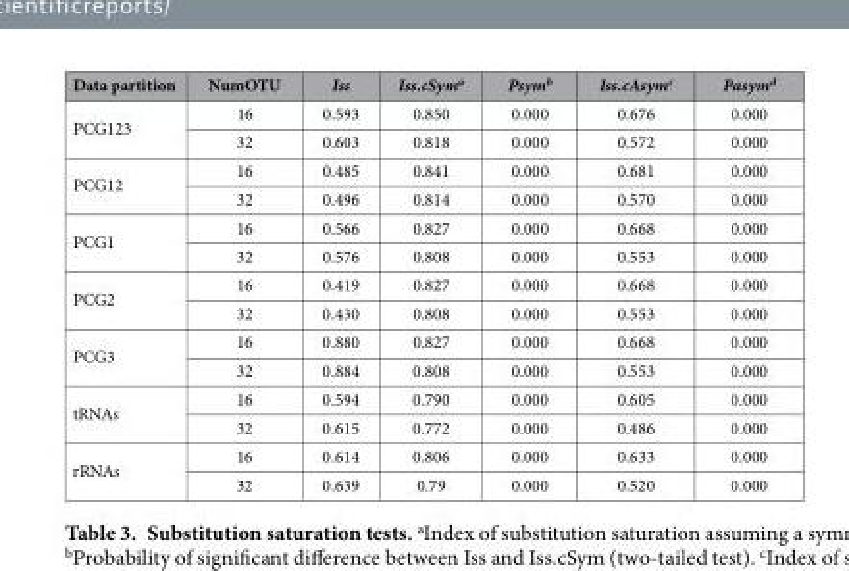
<table><thead><tr><td>Data partition</td><td>NumOTU</td><td>Iss</td><td>Iss.cSym<sup>a</sup></td><td>Psym<sup>b</sup></td><td>Iss.cAsym<sup>c</sup></td><td>Pasym<sup>d</sup></td></tr></thead><tbody><tr><td rowspan="2">PCG123</td><td>16</td><td>0.593</td><td>0.850</td><td>0.000</td><td>0.676</td><td>0.000</td></tr><tr><td>32</td><td>0.603</td><td>0.818</td><td>0.000</td><td>0.572</td><td>0.000</td></tr><tr><td rowspan="2">PCG12</td><td>16</td><td>0.485</td><td>0.841</td><td>0.000</td><td>0.681</td><td>0.000</td></tr><tr><td>32</td><td>0.496</td><td>0.814</td><td>0.000</td><td>0.570</td><td>0.000</td></tr><tr><td rowspan="2">PCG1</td><td>16</td><td>0.566</td><td>0.827</td><td>0.000</td><td>0.668</td><td>0.000</td></tr><tr><td>32</td><td>0.576</td><td>0.808</td><td>0.000</td><td>0.553</td><td>0.000</td></tr><tr><td rowspan="2">PCG2</td><td>16</td><td>0.419</td><td>0.827</td><td>0.000</td><td>0.668</td><td>0.000</td></tr><tr><td>32</td><td>0.430</td><td>0.808</td><td>0.000</td><td>0.553</td><td>0.000</td></tr><tr><td rowspan="2">PCG3</td><td>16</td><td>0.880</td><td>0.827</td><td>0.000</td><td>0.668</td><td>0.000</td></tr><tr><td>32</td><td>0.884</td><td>0.808</td><td>0.000</td><td>0.553</td><td>0.000</td></tr><tr><td rowspan="2">tRNAs</td><td>16</td><td>0.594</td><td>0.790</td><td>0.000</td><td>0.605</td><td>0.000</td></tr><tr><td>32</td><td>0.615</td><td>0.772</td><td>0.000</td><td>0.486</td><td>0.000</td></tr><tr><td rowspan="2">rRNAs</td><td>16</td><td>0.614</td><td>0.806</td><td>0.000</td><td>0.633</td><td>0.000</td></tr><tr><td>32</td><td>0.639</td><td>0.79</td><td>0.000</td><td>0.520</td><td>0.000</td></tr></tbody></table>